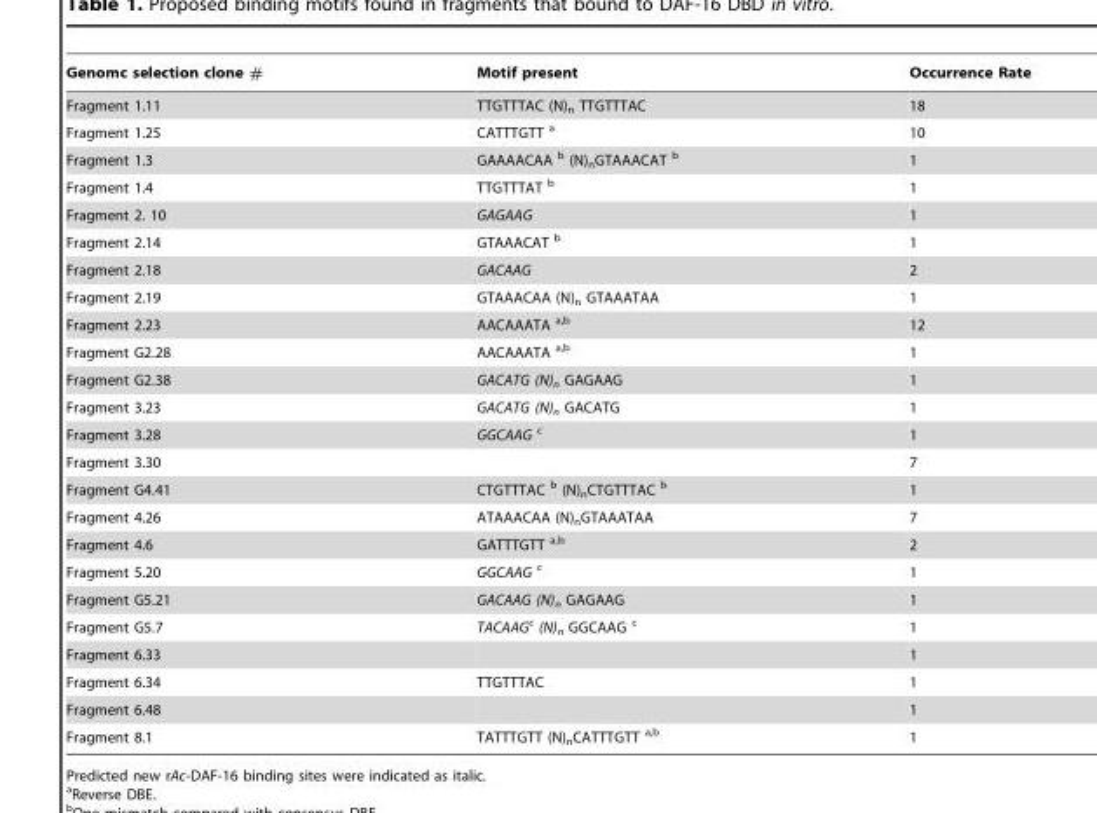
<table><thead><tr><td>Genomc selection clone #</td><td>Motif present</td><td>Occurrence Rate</td></tr></thead><tbody><tr><td>Fragment 1.11</td><td>TTGTTTAC (N)<sub>n</sub> TTGTTTAC</td><td>18</td></tr><tr><td>Fragment 1.25</td><td>CATTTGTT a</td><td>10</td></tr><tr><td>Fragment 1.3</td><td>GAAAACAA b (N)<sub>n</sub>GTAAACAT b</td><td>1</td></tr><tr><td>Fragment 1.4</td><td>TTGTTTAT b</td><td>1</td></tr><tr><td>Fragment 2. 10</td><td>GAGAAG</td><td>1</td></tr><tr><td>Fragment 2.14</td><td>GTAAACAT b</td><td>1</td></tr><tr><td>Fragment 2.18</td><td>GACAAG</td><td>2</td></tr><tr><td>Fragment 2.19</td><td>GTAAACAA (N)<sub>n</sub> GTAAATAA</td><td>1</td></tr><tr><td>Fragment 2.23</td><td>AACAAATA a,b</td><td>12</td></tr><tr><td>Fragment G2.28</td><td>AACAAATA a,b</td><td>1</td></tr><tr><td>Fragment G2.38</td><td>GACATG (N)<sub>n</sub> GAGAAG</td><td>1</td></tr><tr><td>Fragment 3.23</td><td>GACATG (N)<sub>n</sub> GACATG</td><td>1</td></tr><tr><td>Fragment 3.28</td><td>GGCAAG c</td><td>1</td></tr><tr><td>Fragment 3.30</td><td></td><td>7</td></tr><tr><td>Fragment G4.41</td><td>CTGTTTAC b (N)<sub>n</sub>CTGTTTAC b</td><td>1</td></tr><tr><td>Fragment 4.26</td><td>ATAAACAA (N)<sub>n</sub>GTAAATAA</td><td>7</td></tr><tr><td>Fragment 4.6</td><td>GATTTGTT a,b</td><td>2</td></tr><tr><td>Fragment 5.20</td><td>GGCAAG c</td><td>1</td></tr><tr><td>Fragment G5.21</td><td>GACAAG (N)<sub>n</sub> GAGAAG</td><td>1</td></tr><tr><td>Fragment G5.7</td><td>TACAAGc (N)<sub>n</sub> GGCAAG c</td><td>1</td></tr><tr><td>Fragment 6.33</td><td></td><td>1</td></tr><tr><td>Fragment 6.34</td><td>TTGTTTAC</td><td>1</td></tr><tr><td>Fragment 6.48</td><td></td><td>1</td></tr><tr><td>Fragment 8.1</td><td>TATTTGTT (N)<sub>n</sub>CATTTGTT a,b</td><td>1</td></tr></tbody></table>